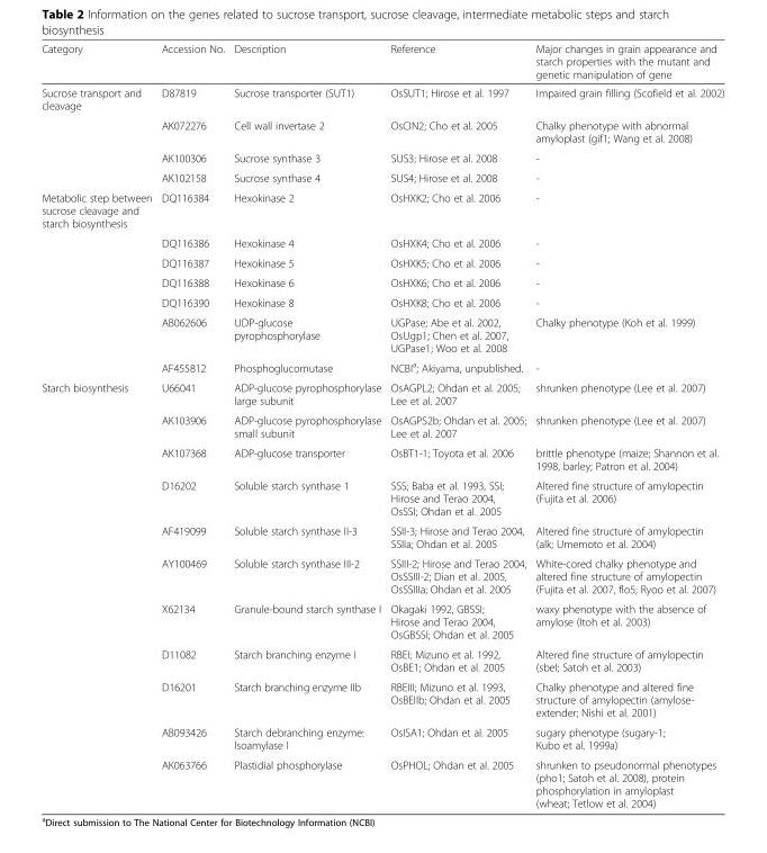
<table><thead><tr><td>Category</td><td>Accession No.</td><td>Description</td><td>Reference</td><td>Major changes in grain appearance and starch properties with the mutant and genetic manipulation of gene</td></tr></thead><tbody><tr><td rowspan="4">Sucrose transport and cleavage</td><td>D87819</td><td>Sucrose transporter (SUT1)</td><td>OsSUT1; Hirose et al. 1997</td><td>Impaired grain filling (Scofield et al. 2002)</td></tr><tr><td>AK072276</td><td>Cell wall invertase 2</td><td>OsCIN2; Cho et al. 2005</td><td>Chalky phenotype with abnormal amyloplast (gif1; Wang et al. 2008)</td></tr><tr><td>AK100306</td><td>Sucrose synthase 3</td><td>SUS3; Hirose et al. 2008</td><td>-</td></tr><tr><td>AK102158</td><td>Sucrose synthase 4</td><td>SUS4; Hirose et al. 2008</td><td>-</td></tr><tr><td rowspan="7">Metabolic step between sucrose cleavage and starch biosynthesis</td><td>DQ116384</td><td>Hexokinase 2</td><td>OsHXK2; Cho et al. 2006</td><td>-</td></tr><tr><td>DQ116386</td><td>Hexokinase 4</td><td>OsHXK4; Cho et al. 2006</td><td>-</td></tr><tr><td>DQ116387</td><td>Hexokinase 5</td><td>OsHXK5; Cho et al. 2006</td><td>-</td></tr><tr><td>DQ116388</td><td>Hexokinase 6</td><td>OsHXK6; Cho et al. 2006</td><td>-</td></tr><tr><td>DQ116390</td><td>Hexokinase 8</td><td>OsHXK8; Cho et al. 2006</td><td>-</td></tr><tr><td>AB062606</td><td>UDP-glucose pyrophosphorylase</td><td>UGPase; Abe et al. 2002, OsUgp1; Chen et al. 2007, UGPase1; Woo et al. 2008</td><td>Chalky phenotype (Koh et al. 1999)</td></tr><tr><td>AF455812</td><td>Phosphoglucomutase</td><td>NCBI<sup>a</sup>; Akiyama, unpublished.</td><td>-</td></tr><tr><td rowspan="11">Starch biosynthesis</td><td>U66041</td><td>ADP-glucose pyrophosphorylase large subunit</td><td>OsAGPL2; Ohdan et al. 2005; Lee et al. 2007</td><td>shrunken phenotype (Lee et al. 2007)</td></tr><tr><td>AK103906</td><td>ADP-glucose pyrophosphorylase small subunit</td><td>OsAGPS2b; Ohdan et al. 2005; Lee et al. 2007</td><td>shrunken phenotype (Lee et al. 2007)</td></tr><tr><td>AK107368</td><td>ADP-glucose transporter</td><td>OsBT1-1; Toyota et al. 2006</td><td>brittle phenotype (maize; Shannon et al. 1998, barley; Patron et al. 2004)</td></tr><tr><td>D16202</td><td>Soluble starch synthase 1</td><td>SSS; Baba et al. 1993, SSI; Hirose and Terao 2004, OsSSI; Ohdan et al. 2005</td><td>Altered fine structure of amylopectin (Fujita et al. 2006)</td></tr><tr><td>AF419099</td><td>Soluble starch synthase II-3</td><td>SSII-3; Hirose and Terao 2004, SSIIa; Ohdan et al. 2005</td><td>Altered fine structure of amylopectin (alk; Umemoto et al. 2004)</td></tr><tr><td>AY100469</td><td>Soluble starch synthase III-2</td><td>SSIII-2; Hirose and Terao 2004, OsSSIII-2; Dian et al. 2005, OsSSIIIa; Ohdan et al. 2005</td><td>White-cored chalky phenotype and altered fine structure of amylopectin (Fujita et al. 2007, flo5; Ryoo et al. 2007)</td></tr><tr><td>X62134</td><td>Granule-bound starch synthase I</td><td>Okagaki 1992, GBSSI; Hirose and Terao 2004, OsGBSSI; Ohdan et al. 2005</td><td>waxy phenotype with the absence of amylose (Itoh et al. 2003)</td></tr><tr><td>D11082</td><td>Starch branching enzyme I</td><td>RBEI; Mizuno et al. 1992, OsBE1; Ohdan et al. 2005</td><td>Altered fine structure of amylopectin (sbeI; Satoh et al. 2003)</td></tr><tr><td>D16201</td><td>Starch branching enzyme IIb</td><td>RBEIII; Mizuno et al. 1993, OsBEIIb; Ohdan et al. 2005</td><td>Chalky phenotype and altered fine structure of amylopectin (amylose- extender; Nishi et al. 2001)</td></tr><tr><td>AB093426</td><td>Starch debranching enzyme: Isoamylase I</td><td>OsISA1; Ohdan et al. 2005</td><td>sugary phenotype (sugary-1; Kubo et al. 1999a)</td></tr><tr><td>AK063766</td><td>Plastidial phosphorylase</td><td>OsPHOL; Ohdan et al. 2005</td><td>shrunken to pseudonormal phenotypes (pho1; Satoh et al. 2008), protein phosphorylation in amyloplast (wheat; Tetlow et al. 2004)</td></tr></tbody></table>